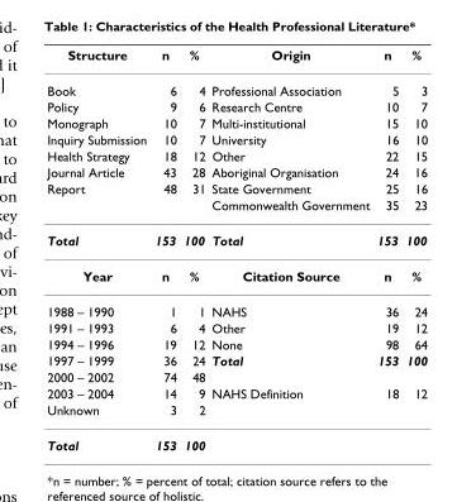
<table><thead><tr><td>Structure</td><td>n</td><td>%</td><td>Origin</td><td>n</td><td>%</td></tr></thead><tbody><tr><td>Book</td><td>6</td><td>4</td><td>Professional Association</td><td>5</td><td>3</td></tr><tr><td>Policy</td><td>9</td><td>6</td><td>Research Centre</td><td>10</td><td>7</td></tr><tr><td>Monograph</td><td>10</td><td>7</td><td>Multi-institutional</td><td>15</td><td>10</td></tr><tr><td>Inquiry Submission</td><td>10</td><td>7</td><td>University</td><td>16</td><td>10</td></tr><tr><td>Health Strategy</td><td>18</td><td>12</td><td>Other</td><td>22</td><td>15</td></tr><tr><td>Journal Article</td><td>43</td><td>28</td><td>Aboriginal Organisation</td><td>24</td><td>16</td></tr><tr><td rowspan="2">Report</td><td>48</td><td>31</td><td>State Government</td><td>25</td><td>16</td></tr><tr><td></td><td></td><td>Commonwealth Government</td><td>35</td><td>23</td></tr><tr><td>Total</td><td>153</td><td>100</td><td>Total</td><td>153</td><td>100</td></tr><tr><td>Year</td><td>n</td><td>%</td><td>Citation Source</td><td>n</td><td>%</td></tr><tr><td>1988 – 1990</td><td>1</td><td>1</td><td>NAHS</td><td>36</td><td>24</td></tr><tr><td>1991 – 1993</td><td>6</td><td>4</td><td>Other</td><td>19</td><td>12</td></tr><tr><td>1994 – 1996</td><td>19</td><td>12</td><td>None</td><td>98</td><td>64</td></tr><tr><td>1997 – 1999</td><td>36</td><td>24</td><td>Total</td><td>153</td><td>100</td></tr><tr><td>2000 – 2002</td><td>74</td><td>48</td><td></td><td></td><td></td></tr><tr><td>2003 – 2004</td><td>14</td><td>9</td><td>NAHS Definition</td><td>18</td><td>12</td></tr><tr><td>Unknown</td><td>3</td><td>2</td><td></td><td></td><td></td></tr><tr><td>Total</td><td>153</td><td>100</td><td></td><td></td><td></td></tr></tbody></table>